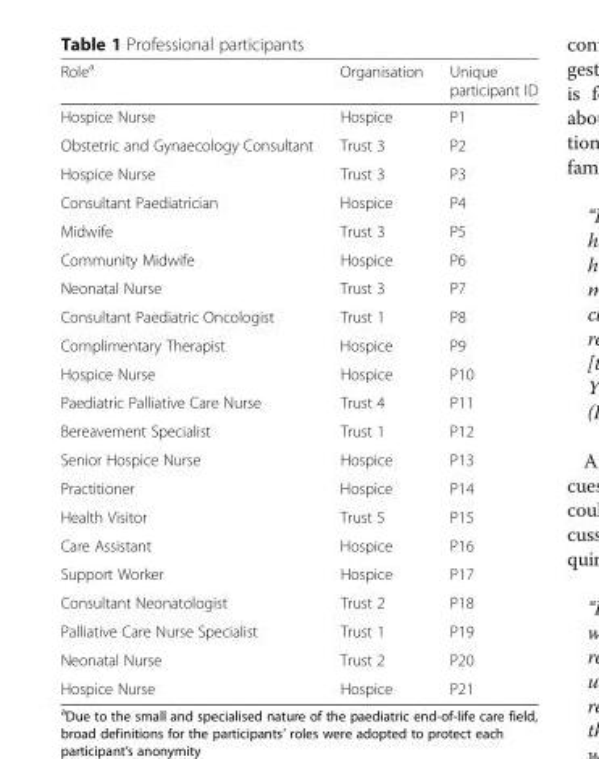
<table><thead><tr><td>Role<sup>a</sup></td><td>Organisation</td><td>Unique participant ID</td></tr></thead><tbody><tr><td>Hospice Nurse</td><td>Hospice</td><td>P1</td></tr><tr><td>Obstetric and Gynaecology Consultant</td><td>Trust 3</td><td>P2</td></tr><tr><td>Hospice Nurse</td><td>Trust 3</td><td>P3</td></tr><tr><td>Consultant Paediatrician</td><td>Hospice</td><td>P4</td></tr><tr><td>Midwife</td><td>Trust 3</td><td>P5</td></tr><tr><td>Community Midwife</td><td>Hospice</td><td>P6</td></tr><tr><td>Neonatal Nurse</td><td>Trust 3</td><td>P7</td></tr><tr><td>Consultant Paediatric Oncologist</td><td>Trust 1</td><td>P8</td></tr><tr><td>Complimentary Therapist</td><td>Hospice</td><td>P9</td></tr><tr><td>Hospice Nurse</td><td>Hospice</td><td>P10</td></tr><tr><td>Paediatric Palliative Care Nurse</td><td>Trust 4</td><td>P11</td></tr><tr><td>Bereavement Specialist</td><td>Trust 1</td><td>P12</td></tr><tr><td>Senior Hospice Nurse</td><td>Hospice</td><td>P13</td></tr><tr><td>Practitioner</td><td>Hospice</td><td>P14</td></tr><tr><td>Health Visitor</td><td>Trust 5</td><td>P15</td></tr><tr><td>Care Assistant</td><td>Hospice</td><td>P16</td></tr><tr><td>Support Worker</td><td>Hospice</td><td>P17</td></tr><tr><td>Consultant Neonatologist</td><td>Trust 2</td><td>P18</td></tr><tr><td>Palliative Care Nurse Specialist</td><td>Trust 1</td><td>P19</td></tr><tr><td>Neonatal Nurse</td><td>Trust 2</td><td>P20</td></tr><tr><td>Hospice Nurse</td><td>Hospice</td><td>P21</td></tr></tbody></table>